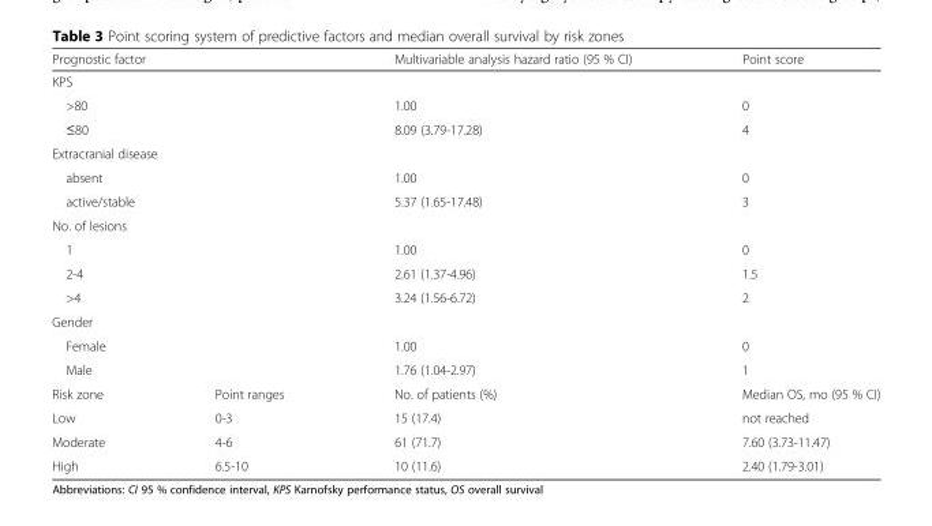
<table><thead><tr><td colspan="2">Prognostic factor</td><td>Multivariable analysis hazard ratio (95 % CI)</td><td>Point score</td></tr></thead><tbody><tr><td colspan="4">KPS</td></tr><tr><td colspan="2">&gt;80</td><td>1.00</td><td>0</td></tr><tr><td colspan="2">≤80</td><td>8.09 (3.79-17.28)</td><td>4</td></tr><tr><td colspan="4">Extracranial disease</td></tr><tr><td colspan="2">absent</td><td>1.00</td><td>0</td></tr><tr><td colspan="2">active/stable</td><td>5.37 (1.65-17.48)</td><td>3</td></tr><tr><td colspan="4">No. of lesions</td></tr><tr><td colspan="2">1</td><td>1.00</td><td>0</td></tr><tr><td colspan="2">2-4</td><td>2.61 (1.37-4.96)</td><td>1.5</td></tr><tr><td colspan="2">&gt;4</td><td>3.24 (1.56-6.72)</td><td>2</td></tr><tr><td colspan="4">Gender</td></tr><tr><td colspan="2">Female</td><td>1.00</td><td>0</td></tr><tr><td colspan="2">Male</td><td>1.76 (1.04-2.97)</td><td>1</td></tr><tr><td>Risk zone</td><td>Point ranges</td><td>No. of patients (%)</td><td>Median OS, mo (95 % CI)</td></tr><tr><td>Low</td><td>0-3</td><td>15 (17.4)</td><td>not reached</td></tr><tr><td>Moderate</td><td>4-6</td><td>61 (71.7)</td><td>7.60 (3.73-11.47)</td></tr><tr><td>High</td><td>6.5-10</td><td>10 (11.6)</td><td>2.40 (1.79-3.01)</td></tr></tbody></table>